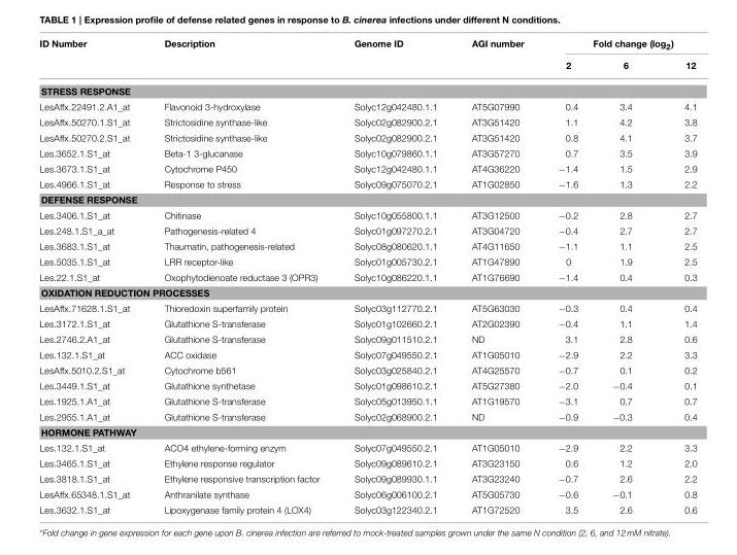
<table><thead><tr><td rowspan="2">ID Number</td><td rowspan="2">Description</td><td rowspan="2">Genome ID</td><td rowspan="2">AGI number</td><td colspan="3">Fold change (log<sub>2</sub>)</td></tr><tr><td>2</td><td>6</td><td>12</td></tr></thead><tbody><tr><td colspan="7">STRESS RESPONSE</td></tr><tr><td>LesAffx.22491.2.A1_at</td><td>Flavonoid 3-hydroxylase</td><td>Solyc12g042480.1.1</td><td>AT5G07990</td><td>0.4</td><td>3.4</td><td>4.1</td></tr><tr><td>LesAffx.50270.1.S1_at</td><td>Strictosidine synthase-like</td><td>Solyc02g082900.2.1</td><td>AT3G51420</td><td>1.1</td><td>4.2</td><td>3.8</td></tr><tr><td>LesAffx.50270.2.S1_at</td><td>Strictosidine synthase-like</td><td>Solyc02g082900.2.1</td><td>AT3G51420</td><td>0.8</td><td>4.1</td><td>3.7</td></tr><tr><td>Les.3652.1.S1_at</td><td>Beta-1 3-glucanase</td><td>Solyc10g079860.1.1</td><td>AT3G57270</td><td>0.7</td><td>3.5</td><td>3.9</td></tr><tr><td>Les.3673.1.S1_at</td><td>Cytochrome P450</td><td>Solyc12g042480.1.1</td><td>AT4G36220</td><td>−1.4</td><td>1.5</td><td>2.9</td></tr><tr><td>Les.4966.1.S1_at</td><td>Response to stress</td><td>Solyc09g075070.2.1</td><td>AT1G02850</td><td>−1.6</td><td>1.3</td><td>2.2</td></tr><tr><td colspan="7">DEFENSE RESPONSE</td></tr><tr><td>Les.3406.1.S1_at</td><td>Chitinase</td><td>Solyc10g055800.1.1</td><td>AT3G12500</td><td>−0.2</td><td>2.8</td><td>2.7</td></tr><tr><td>Les.248.1.S1_a_at</td><td>Pathogenesis-related 4</td><td>Solyc01g097270.2.1</td><td>AT3G04720</td><td>−0.4</td><td>2.7</td><td>2.7</td></tr><tr><td>Les.3683.1.S1_at</td><td>Thaumatin, pathogenesis-related</td><td>Solyc08g080620.1.1</td><td>AT4G11650</td><td>−1.1</td><td>1.1</td><td>2.5</td></tr><tr><td>Les.5035.1.S1_at</td><td>LRR receptor-like</td><td>Solyc01g005730.2.1</td><td>AT1G47890</td><td>0</td><td>1.9</td><td>2.5</td></tr><tr><td>Les.22.1.S1_at</td><td>Oxophytodienoate reductase 3 (OPR3)</td><td>Solyc10g086220.1.1</td><td>AT1G76690</td><td>−1.4</td><td>0.4</td><td>0.3</td></tr><tr><td colspan="7">OXIDATION REDUCTION PROCESSES</td></tr><tr><td>LesAffx.71628.1.S1_at</td><td>Thioredoxin superfamily protein</td><td>Solyc03g112770.2.1</td><td>AT5G63030</td><td>−0.3</td><td>0.4</td><td>0.4</td></tr><tr><td>Les.3172.1.S1_at</td><td>Glutathione S-transferase</td><td>Solyc01g102660.2.1</td><td>AT2G02390</td><td>−0.4</td><td>1.1</td><td>1.4</td></tr><tr><td>Les.2746.2.A1_at</td><td>Glutathione S-transferase</td><td>Solyc09g011510.2.1</td><td>ND</td><td>3.1</td><td>2.8</td><td>0.6</td></tr><tr><td>Les.132.1.S1_at</td><td>ACC oxidase</td><td>Solyc07g049550.2.1</td><td>AT1G05010</td><td>−2.9</td><td>2.2</td><td>3.3</td></tr><tr><td>LesAffx.5010.2.S1_at</td><td>Cytochrome b561</td><td>Solyc03g025840.2.1</td><td>AT4G25570</td><td>−0.7</td><td>0.1</td><td>0.2</td></tr><tr><td>Les.3449.1.S1_at</td><td>Glutathione synthetase</td><td>Solyc01g098610.2.1</td><td>AT5G27380</td><td>−2.0</td><td>−0.4</td><td>0.1</td></tr><tr><td>Les.1925.1.A1_at</td><td>Glutathione S-transferase</td><td>Solyc05g013950.1.1</td><td>AT1G19570</td><td>−3.1</td><td>0.7</td><td>0.7</td></tr><tr><td>Les.2955.1.A1_at</td><td>Glutathione S-transferase</td><td>Solyc02g068900.2.1</td><td>ND</td><td>−0.9</td><td>−0.3</td><td>0.4</td></tr><tr><td colspan="7">HORMONE PATHWAY</td></tr><tr><td>Les.132.1.S1_at</td><td>ACO4 ethylene-forming enzym</td><td>Solyc07g049550.2.1</td><td>AT1G05010</td><td>−2.9</td><td>2.2</td><td>3.3</td></tr><tr><td>Les.3465.1.S1_at</td><td>Ethylene response regulator</td><td>Solyc09g089610.2.1</td><td>AT3G23150</td><td>0.6</td><td>1.2</td><td>2.0</td></tr><tr><td>Les.3818.1.S1_at</td><td>Ethylene responsive transcription factor</td><td>Solyc09g089930.1.1</td><td>AT3G23240</td><td>−0.7</td><td>2.6</td><td>2.2</td></tr><tr><td>LesAffx.65348.1.S1_at</td><td>Anthranilate synthase</td><td>Solyc06g006100.2.1</td><td>AT5G05730</td><td>−0.6</td><td>−0.1</td><td>0.8</td></tr><tr><td>Les.3632.1.S1_at</td><td>Lipoxygenase family protein 4 (LOX4)</td><td>Solyc03g122340.2.1</td><td>AT1G72520</td><td>3.5</td><td>2.6</td><td>0.6</td></tr></tbody></table>